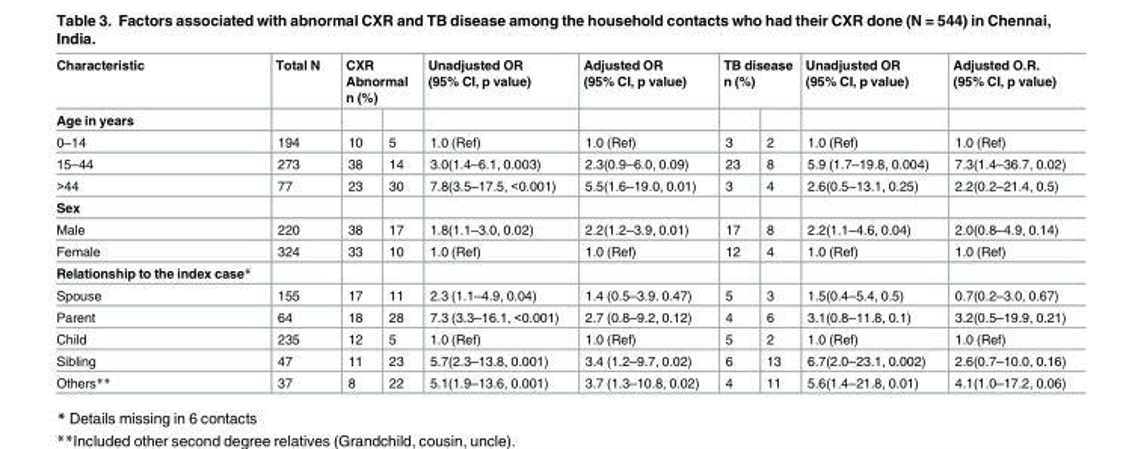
<table><thead><tr><td rowspan="2">Characteristic Age in years</td><td rowspan="2">Total N</td><td colspan="2">CXR Abnormal n (%)</td><td rowspan="2">Unadjusted OR (95% CI, p value)</td><td rowspan="2">Adjusted OR (95% CI, p value)</td><td colspan="2">TB disease n (%)</td><td rowspan="2">Unadjusted OR (95% CI, p value)</td><td rowspan="2">Adjusted O.R. (95% CI, p value)</td></tr><tr><td></td><td></td><td></td><td></td></tr></thead><tbody><tr><td>0–14</td><td>194</td><td>10</td><td>5</td><td>1.0 (Ref)</td><td>1.0 (Ref)</td><td>3</td><td>2</td><td>1.0 (Ref)</td><td>1.0 (Ref)</td></tr><tr><td>15–44</td><td>273</td><td>38</td><td>14</td><td>3.0(1.4–6.1, 0.003)</td><td>2.3(0.9–6.0, 0.09)</td><td>23</td><td>8</td><td>5.9 (1.7–19.8, 0.004)</td><td>7.3(1.4–36.7, 0.02)</td></tr><tr><td>&gt;44</td><td>77</td><td>23</td><td>30</td><td>7.8(3.5–17.5, &lt;0.001)</td><td>5.5(1.6–19.0, 0.01)</td><td>3</td><td>4</td><td>2.6(0.5–13.1, 0.25)</td><td>2.2(0.2–21.4, 0.5)</td></tr><tr><td colspan="10">Sex</td></tr><tr><td>Male</td><td>220</td><td>38</td><td>17</td><td>1.8(1.1–3.0, 0.02)</td><td>2.2(1.2–3.9, 0.01)</td><td>17</td><td>8</td><td>2.2(1.1–4.6, 0.04)</td><td>2.0(0.8–4.9, 0.14)</td></tr><tr><td>Female</td><td>324</td><td>33</td><td>10</td><td>1.0 (Ref)</td><td>1.0 (Ref)</td><td>12</td><td>4</td><td>1.0 (Ref)</td><td>1.0 (Ref)</td></tr><tr><td colspan="10">Relationship to the index case*</td></tr><tr><td>Spouse</td><td>155</td><td>17</td><td>11</td><td>2.3 (1.1–4.9, 0.04)</td><td>1.4 (0.5–3.9. 0.47)</td><td>5</td><td>3</td><td>1.5(0.4–5.4, 0.5)</td><td>0.7(0.2–3.0, 0.67)</td></tr><tr><td>Parent</td><td>64</td><td>18</td><td>28</td><td>7.3 (3.3–16.1, &lt;0.001)</td><td>2.7 (0.8–9.2, 0.12)</td><td>4</td><td>6</td><td>3.1(0.8–11.8, 0.1)</td><td>3.2(0.5–19.9, 0.21)</td></tr><tr><td>Child</td><td>235</td><td>12</td><td>5</td><td>1.0 (Ref)</td><td>1.0 (Ref)</td><td>5</td><td>2</td><td>1.0 (Ref)</td><td>1.0 (Ref)</td></tr><tr><td>Sibling</td><td>47</td><td>11</td><td>23</td><td>5.7(2.3–13.8, 0.001)</td><td>3.4 (1.2–9.7, 0.02)</td><td>6</td><td>13</td><td>6.7(2.0–23.1, 0.002)</td><td>2.6(0.7–10.0, 0.16)</td></tr><tr><td>Others**</td><td>37</td><td>8</td><td>22</td><td>5.1(1.9–13.6, 0.001)</td><td>3.7 (1.3–10.8, 0.02)</td><td>4</td><td>11</td><td>5.6(1.4–21.8, 0.01)</td><td>4.1(1.0–17.2, 0.06)</td></tr></tbody></table>